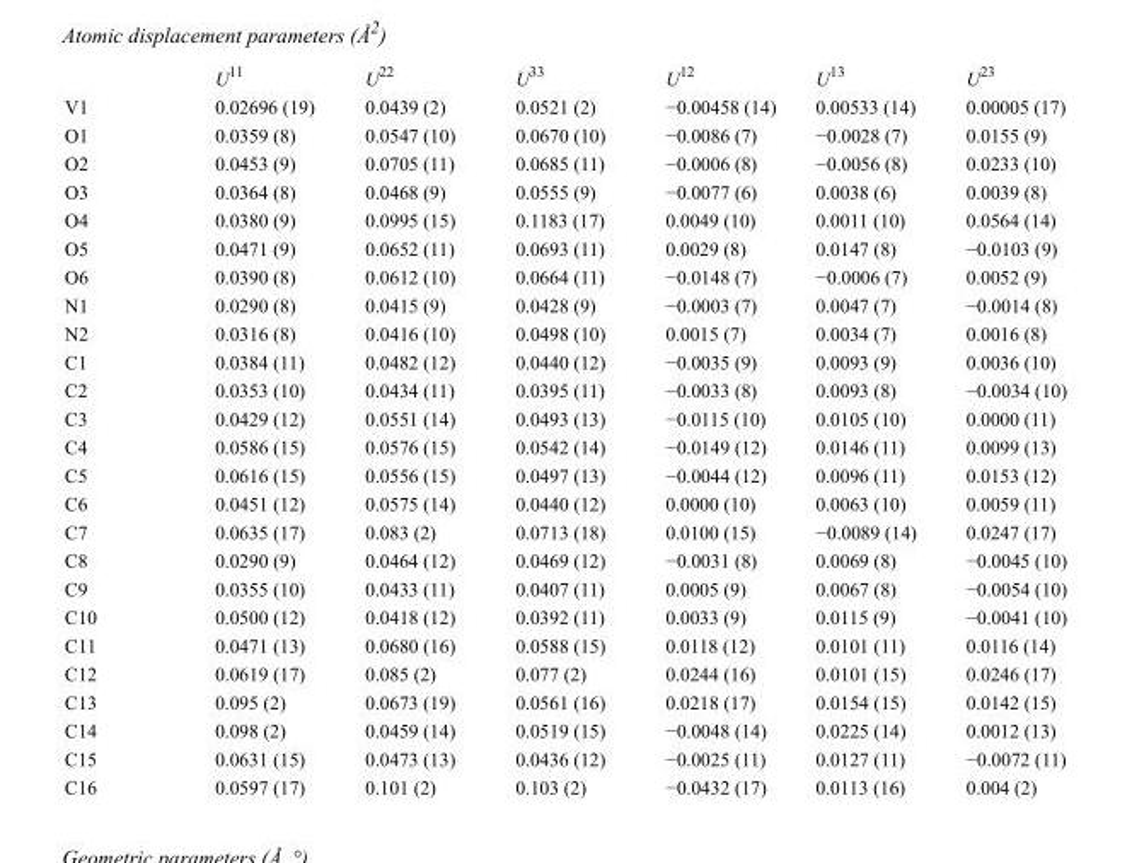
<table><thead><tr><td></td><td>U<sup>11</sup></td><td>U<sup>22</sup></td><td>U<sup>33</sup></td><td>U<sup>12</sup></td><td>U<sup>13</sup></td><td>U<sup>23</sup></td></tr></thead><tbody><tr><td>V1</td><td>0.02696 (19)</td><td>0.0439 (2)</td><td>0.0521 (2)</td><td>−0.00458 (14)</td><td>0.00533 (14)</td><td>0.00005 (17)</td></tr><tr><td>O1</td><td>0.0359 (8)</td><td>0.0547 (10)</td><td>0.0670 (10)</td><td>−0.0086 (7)</td><td>−0.0028 (7)</td><td>0.0155 (9)</td></tr><tr><td>O2</td><td>0.0453 (9)</td><td>0.0705 (11)</td><td>0.0685 (11)</td><td>−0.0006 (8)</td><td>−0.0056 (8)</td><td>0.0233 (10)</td></tr><tr><td>O3</td><td>0.0364 (8)</td><td>0.0468 (9)</td><td>0.0555 (9)</td><td>−0.0077 (6)</td><td>0.0038 (6)</td><td>0.0039 (8)</td></tr><tr><td>O4</td><td>0.0380 (9)</td><td>0.0995 (15)</td><td>0.1183 (17)</td><td>0.0049 (10)</td><td>0.0011 (10)</td><td>0.0564 (14)</td></tr><tr><td>O5</td><td>0.0471 (9)</td><td>0.0652 (11)</td><td>0.0693 (11)</td><td>0.0029 (8)</td><td>0.0147 (8)</td><td>−0.0103 (9)</td></tr><tr><td>O6</td><td>0.0390 (8)</td><td>0.0612 (10)</td><td>0.0664 (11)</td><td>−0.0148 (7)</td><td>−0.0006 (7)</td><td>0.0052 (9)</td></tr><tr><td>N1</td><td>0.0290 (8)</td><td>0.0415 (9)</td><td>0.0428 (9)</td><td>−0.0003 (7)</td><td>0.0047 (7)</td><td>−0.0014 (8)</td></tr><tr><td>N2</td><td>0.0316 (8)</td><td>0.0416 (10)</td><td>0.0498 (10)</td><td>0.0015 (7)</td><td>0.0034 (7)</td><td>0.0016 (8)</td></tr><tr><td>C1</td><td>0.0384 (11)</td><td>0.0482 (12)</td><td>0.0440 (12)</td><td>−0.0035 (9)</td><td>0.0093 (9)</td><td>0.0036 (10)</td></tr><tr><td>C2</td><td>0.0353 (10)</td><td>0.0434 (11)</td><td>0.0395 (11)</td><td>−0.0033 (8)</td><td>0.0093 (8)</td><td>−0.0034 (10)</td></tr><tr><td>C3</td><td>0.0429 (12)</td><td>0.0551 (14)</td><td>0.0493 (13)</td><td>−0.0115 (10)</td><td>0.0105 (10)</td><td>0.0000 (11)</td></tr><tr><td>C4</td><td>0.0586 (15)</td><td>0.0576 (15)</td><td>0.0542 (14)</td><td>−0.0149 (12)</td><td>0.0146 (11)</td><td>0.0099 (13)</td></tr><tr><td>C5</td><td>0.0616 (15)</td><td>0.0556 (15)</td><td>0.0497 (13)</td><td>−0.0044 (12)</td><td>0.0096 (11)</td><td>0.0153 (12)</td></tr><tr><td>C6</td><td>0.0451 (12)</td><td>0.0575 (14)</td><td>0.0440 (12)</td><td>0.0000 (10)</td><td>0.0063 (10)</td><td>0.0059 (11)</td></tr><tr><td>C7</td><td>0.0635 (17)</td><td>0.083 (2)</td><td>0.0713 (18)</td><td>0.0100 (15)</td><td>−0.0089 (14)</td><td>0.0247 (17)</td></tr><tr><td>C8</td><td>0.0290 (9)</td><td>0.0464 (12)</td><td>0.0469 (12)</td><td>−0.0031 (8)</td><td>0.0069 (8)</td><td>−0.0045 (10)</td></tr><tr><td>C9</td><td>0.0355 (10)</td><td>0.0433 (11)</td><td>0.0407 (11)</td><td>0.0005 (9)</td><td>0.0067 (8)</td><td>−0.0054 (10)</td></tr><tr><td>C10</td><td>0.0500 (12)</td><td>0.0418 (12)</td><td>0.0392 (11)</td><td>0.0033 (9)</td><td>0.0115 (9)</td><td>−0.0041 (10)</td></tr><tr><td>C11</td><td>0.0471 (13)</td><td>0.0680 (16)</td><td>0.0588 (15)</td><td>0.0118 (12)</td><td>0.0101 (11)</td><td>0.0116 (14)</td></tr><tr><td>C12</td><td>0.0619 (17)</td><td>0.085 (2)</td><td>0.077 (2)</td><td>0.0244 (16)</td><td>0.0101 (15)</td><td>0.0246 (17)</td></tr><tr><td>C13</td><td>0.095 (2)</td><td>0.0673 (19)</td><td>0.0561 (16)</td><td>0.0218 (17)</td><td>0.0154 (15)</td><td>0.0142 (15)</td></tr><tr><td>C14</td><td>0.098 (2)</td><td>0.0459 (14)</td><td>0.0519 (15)</td><td>−0.0048 (14)</td><td>0.0225 (14)</td><td>0.0012 (13)</td></tr><tr><td>C15</td><td>0.0631 (15)</td><td>0.0473 (13)</td><td>0.0436 (12)</td><td>−0.0025 (11)</td><td>0.0127 (11)</td><td>−0.0072 (11)</td></tr><tr><td>C16</td><td>0.0597 (17)</td><td>0.101 (2)</td><td>0.103 (2)</td><td>−0.0432 (17)</td><td>0.0113 (16)</td><td>0.004 (2)</td></tr></tbody></table>